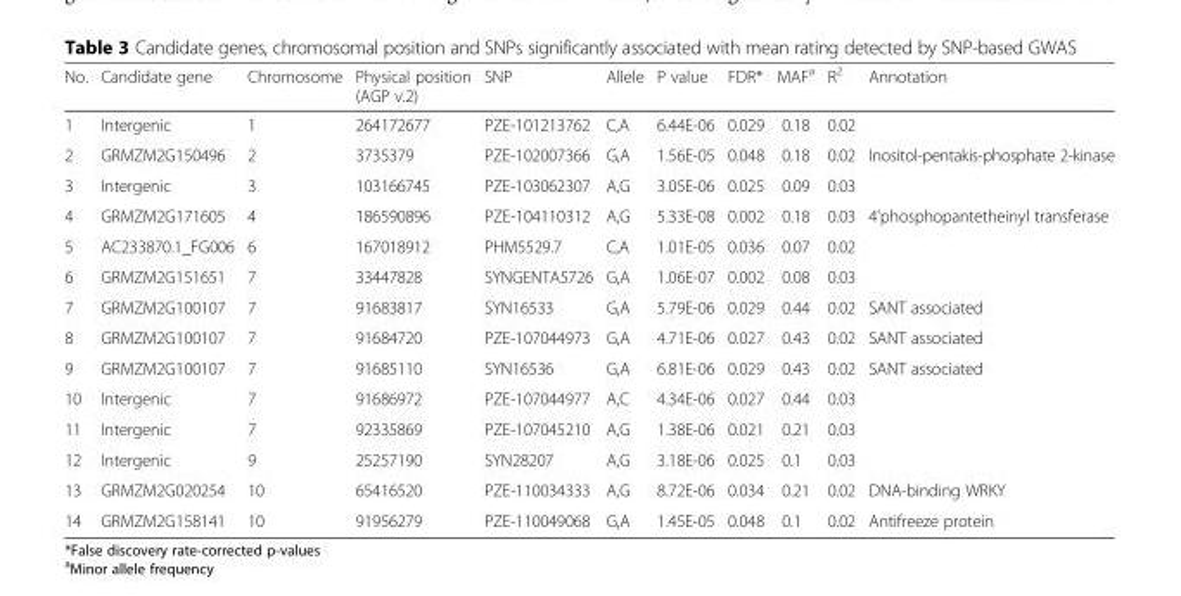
<table><thead><tr><td>No.</td><td>Candidate gene</td><td>Chromosome</td><td>Physical position (AGP v.2)</td><td>SNP</td><td>Allele</td><td>P value</td><td>FDR*</td><td>MAF<sup>a</sup></td><td>R<sup>2</sup></td><td>Annotation</td></tr></thead><tbody><tr><td>1</td><td>Intergenic</td><td>1</td><td>264172677</td><td>PZE-101213762</td><td>C,A</td><td>6.44E-06</td><td>0.029</td><td>0.18</td><td>0.02</td><td></td></tr><tr><td>2</td><td>GRMZM2G150496</td><td>2</td><td>3735379</td><td>PZE-102007366</td><td>G,A</td><td>1.56E-05</td><td>0.048</td><td>0.18</td><td>0.02</td><td>Inositol-pentakis-phosphate 2-kinase</td></tr><tr><td>3</td><td>Intergenic</td><td>3</td><td>103166745</td><td>PZE-103062307</td><td>A,G</td><td>3.05E-06</td><td>0.025</td><td>0.09</td><td>0.03</td><td></td></tr><tr><td>4</td><td>GRMZM2G171605</td><td>4</td><td>186590896</td><td>PZE-104110312</td><td>A,G</td><td>5.33E-08</td><td>0.002</td><td>0.18</td><td>0.03</td><td>4&#x27;phosphopantetheinyl transferase</td></tr><tr><td>5</td><td>AC233870.1_FG006</td><td>6</td><td>167018912</td><td>PHM5529.7</td><td>C,A</td><td>1.01E-05</td><td>0.036</td><td>0.07</td><td>0.02</td><td></td></tr><tr><td>6</td><td>GRMZM2G151651</td><td>7</td><td>33447828</td><td>SYNGENTA5726</td><td>G,A</td><td>1.06E-07</td><td>0.002</td><td>0.08</td><td>0.03</td><td></td></tr><tr><td>7</td><td>GRMZM2G100107</td><td>7</td><td>91683817</td><td>SYN16533</td><td>G,A</td><td>5.79E-06</td><td>0.029</td><td>0.44</td><td>0.02</td><td>SANT associated</td></tr><tr><td>8</td><td>GRMZM2G100107</td><td>7</td><td>91684720</td><td>PZE-107044973</td><td>G,A</td><td>4.71E-06</td><td>0.027</td><td>0.43</td><td>0.02</td><td>SANT associated</td></tr><tr><td>9</td><td>GRMZM2G100107</td><td>7</td><td>91685110</td><td>SYN16536</td><td>G,A</td><td>6.81E-06</td><td>0.029</td><td>0.43</td><td>0.02</td><td>SANT associated</td></tr><tr><td>10</td><td>Intergenic</td><td>7</td><td>91686972</td><td>PZE-107044977</td><td>A,C</td><td>4.34E-06</td><td>0.027</td><td>0.44</td><td>0.03</td><td></td></tr><tr><td>11</td><td>Intergenic</td><td>7</td><td>92335869</td><td>PZE-107045210</td><td>A,G</td><td>1.38E-06</td><td>0.021</td><td>0.21</td><td>0.03</td><td></td></tr><tr><td>12</td><td>Intergenic</td><td>9</td><td>25257190</td><td>SYN28207</td><td>A,G</td><td>3.18E-06</td><td>0.025</td><td>0.1</td><td>0.03</td><td></td></tr><tr><td>13</td><td>GRMZM2G020254</td><td>10</td><td>65416520</td><td>PZE-110034333</td><td>A,G</td><td>8.72E-06</td><td>0.034</td><td>0.21</td><td>0.02</td><td>DNA-binding WRKY</td></tr><tr><td>14</td><td>GRMZM2G158141</td><td>10</td><td>91956279</td><td>PZE-110049068</td><td>G,A</td><td>1.45E-05</td><td>0.048</td><td>0.1</td><td>0.02</td><td>Antifreeze protein</td></tr></tbody></table>